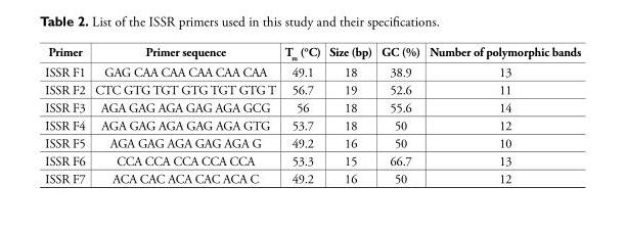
<table><thead><tr><td>Primer</td><td>Primer sequence</td><td>T<sub>m</sub> (°C)</td><td>Size (bp)</td><td>GC (%)</td><td>Number of polymorphic bands</td></tr></thead><tbody><tr><td>ISSR F1</td><td>GAG CAA CAA CAA CAA CAA</td><td>49.1</td><td>18</td><td>38.9</td><td>13</td></tr><tr><td>ISSR F2</td><td>CTC GTG TGT GTG TGT GTG T</td><td>56.7</td><td>19</td><td>52.6</td><td>11</td></tr><tr><td>ISSR F3</td><td>AGA GAG AGA GAG AGA GCG</td><td>56</td><td>18</td><td>55.6</td><td>14</td></tr><tr><td>ISSR F4</td><td>AGA GAG AGA GAG AGA GTG</td><td>53.7</td><td>18</td><td>50</td><td>12</td></tr><tr><td>ISSR F5</td><td>AGA GAG AGA GAG AGA G</td><td>49.2</td><td>16</td><td>50</td><td>10</td></tr><tr><td>ISSR F6</td><td>CCA CCA CCA CCA CCA</td><td>53.3</td><td>15</td><td>66.7</td><td>13</td></tr><tr><td>ISSR F7</td><td>ACA CAC ACA CAC ACA C</td><td>49.2</td><td>16</td><td>50</td><td>12</td></tr></tbody></table>